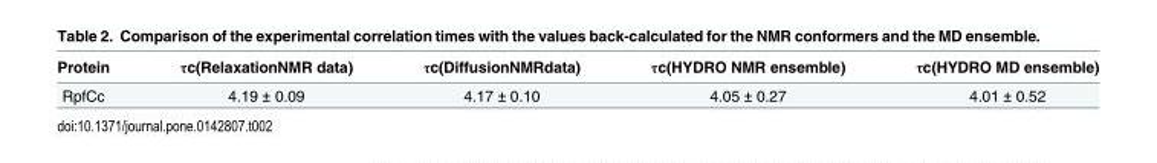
<table><thead><tr><td>Protein</td><td>τc(RelaxationNMR data)</td><td>τc(DiffusionNMRdata)</td><td>τc(HYDRO NMR ensemble)</td><td>τc(HYDRO MD ensemble)</td></tr></thead><tbody><tr><td>RpfCc</td><td>4.19 ± 0.09</td><td>4.17 ± 0.10</td><td>4.05 ± 0.27</td><td>4.01 ± 0.52</td></tr></tbody></table>